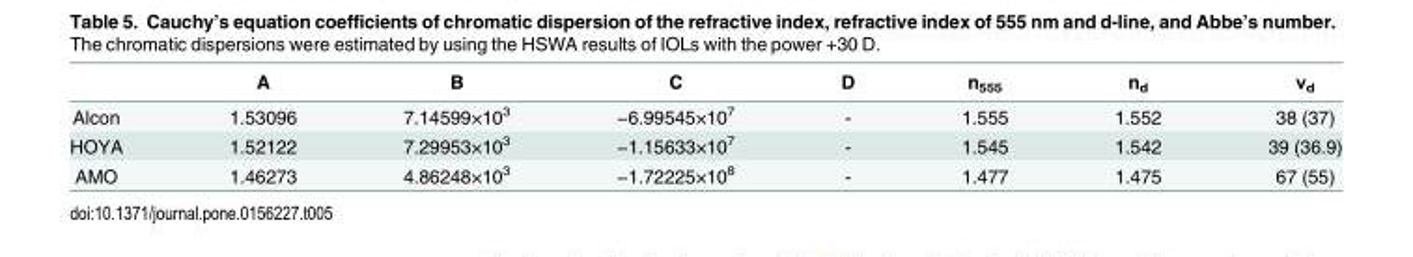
<table><thead><tr><td></td><td>A</td><td>B</td><td>C</td><td>D</td><td>n<sub>555</sub></td><td>n<sub>d</sub></td><td>ν<sub>d</sub></td></tr></thead><tbody><tr><td>Alcon</td><td>1.53096</td><td>7.14599×10<sup>3</sup></td><td>−6.99545×10<sup>7</sup></td><td>-</td><td>1.555</td><td>1.552</td><td>38 (37)</td></tr><tr><td>HOYA</td><td>1.52122</td><td>7.29953×10<sup>3</sup></td><td>−1.15633×10<sup>7</sup></td><td>-</td><td>1.545</td><td>1.542</td><td>39 (36.9)</td></tr><tr><td>AMO</td><td>1.46273</td><td>4.86248×10<sup>3</sup></td><td>−1.72225×10<sup>8</sup></td><td>-</td><td>1.477</td><td>1.475</td><td>67 (55)</td></tr></tbody></table>